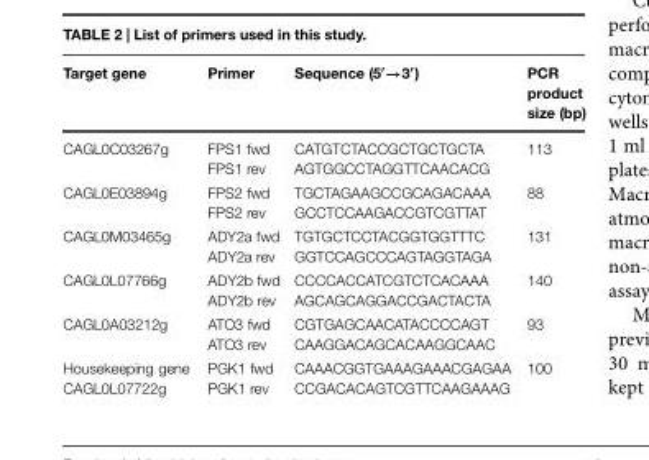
<table><thead><tr><td>Target gene</td><td>Primer</td><td>Sequence (5′→3′)</td><td>PCR product size (bp)</td></tr></thead><tbody><tr><td>CAGL0C03267g</td><td>FPS1 fwd FPS1 rev</td><td>CATGTCTACCGCTGCTGCTA AGTGGCCTAGGTTCAACACG</td><td>113</td></tr><tr><td>CAGL0E03894g</td><td>FPS2 fwd FPS2 rev</td><td>TGCTAGAAGCCGCAGACAAA GCCTCCAAGACCGTCGTTAT</td><td>88</td></tr><tr><td>CAGL0M03465g</td><td>ADY2a fwd ADY2a rev</td><td>TGTGCTCCTACGGTGGTTTC GGTCCAGCCCAGTAGGTAGA</td><td>131</td></tr><tr><td>CAGL0L07766g</td><td>ADY2b fwd ADY2b rev</td><td>CCCCACCATCGTCTCACAAA AGCAGCAGGACCGACTACTA</td><td>140</td></tr><tr><td>CAGL0A03212g</td><td>ATO3 fwd ATO3 rev</td><td>CGTGAGCAACATACCCCAGT CAAGGACAGCACAAGGCAAC</td><td>93</td></tr><tr><td>Housekeeping gene CAGL0L07722g</td><td>PGK1 fwd PGK1 rev</td><td>CAAACGGTGAAAGAAACGAGAA CCGACACAGTCGTTCAAGAAAG</td><td>100</td></tr></tbody></table>